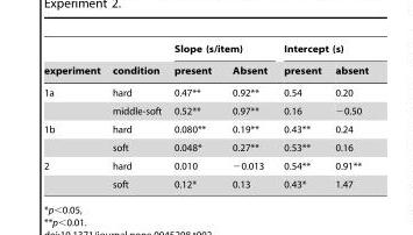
<table><thead><tr><td rowspan="2">experiment</td><td rowspan="2">condition</td><td colspan="2">Slope (s/item)</td><td colspan="2">Intercept (s)</td></tr><tr><td>present</td><td>Absent</td><td>present</td><td>absent</td></tr></thead><tbody><tr><td rowspan="2">1a</td><td>hard</td><td>0.47**</td><td>0.92**</td><td>0.54</td><td>0.20</td></tr><tr><td>middle-soft</td><td>0.52**</td><td>0.97**</td><td>0.16</td><td>−0.50</td></tr><tr><td rowspan="2">1b</td><td>hard</td><td>0.080**</td><td>0.19**</td><td>0.43**</td><td>0.24</td></tr><tr><td>soft</td><td>0.048*</td><td>0.27**</td><td>0.53**</td><td>0.16</td></tr><tr><td rowspan="2">2</td><td>hard</td><td>0.010</td><td>−0.013</td><td>0.54**</td><td>0.91**</td></tr><tr><td>soft</td><td>0.12*</td><td>0.13</td><td>0.43*</td><td>1.47</td></tr></tbody></table>